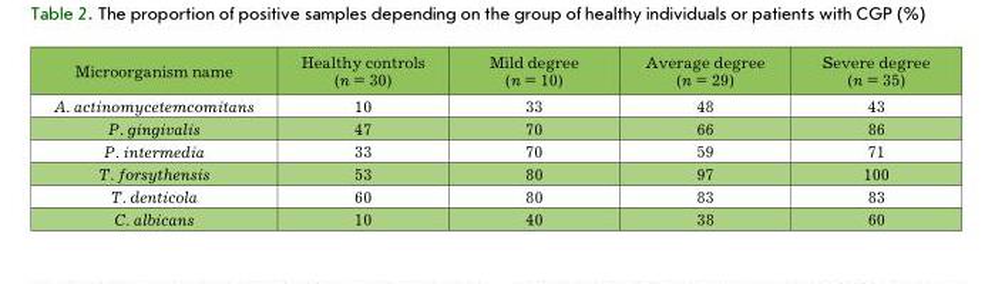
<table><thead><tr><td>Microorganism name</td><td>Healthy controls (n = 30)</td><td>Mild degree (n = 10)</td><td>Average degree (n = 29)</td><td>Severe degree (n = 35)</td></tr></thead><tbody><tr><td>A. actinomycetemcomitans</td><td>10</td><td>33</td><td>48</td><td>43</td></tr><tr><td>P. gingivalis</td><td>47</td><td>70</td><td>66</td><td>86</td></tr><tr><td>P. intermedia</td><td>33</td><td>70</td><td>59</td><td>71</td></tr><tr><td>T. forsythensis</td><td>53</td><td>80</td><td>97</td><td>100</td></tr><tr><td>T. denticola</td><td>60</td><td>80</td><td>83</td><td>83</td></tr><tr><td>C. albicans</td><td>10</td><td>40</td><td>38</td><td>60</td></tr></tbody></table>